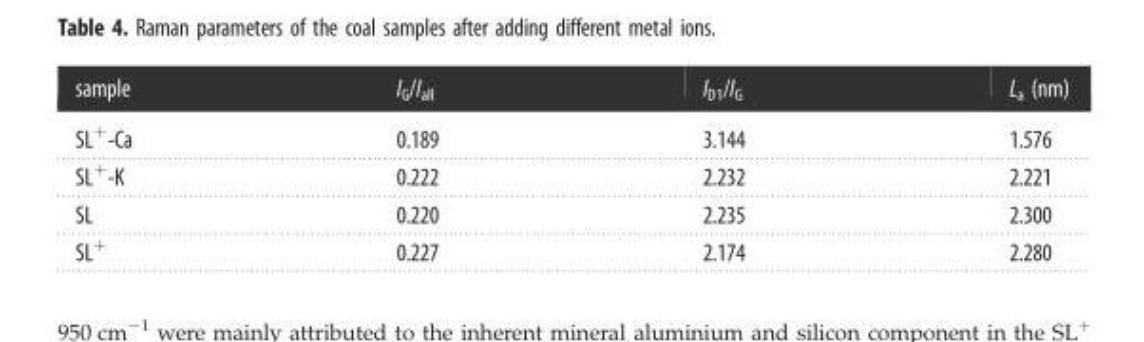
<table><thead><tr><td>sample</td><td>I<sub>G</sub>/I<sub>all</sub></td><td>I<sub>D1</sub>/I<sub>G</sub></td><td>L<sub>a</sub> (nm)</td></tr></thead><tbody><tr><td>SL<sup>+</sup>-Ca</td><td>0.189</td><td>3.144</td><td>1.576</td></tr><tr><td>SL<sup>+</sup>-K</td><td>0.222</td><td>2.232</td><td>2.221</td></tr><tr><td>SL</td><td>0.220</td><td>2.235</td><td>2.300</td></tr><tr><td>SL<sup>+</sup></td><td>0.227</td><td>2.174</td><td>2.280</td></tr></tbody></table>